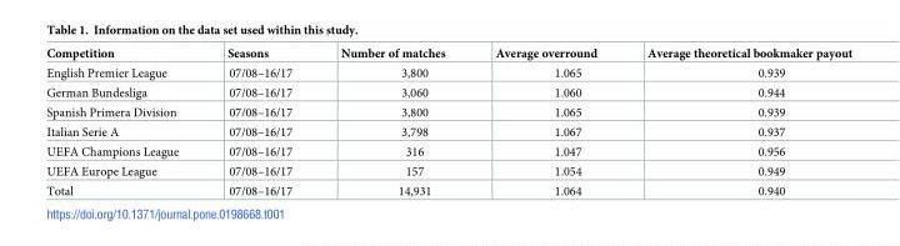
<table><thead><tr><td>Competition</td><td>Seasons</td><td>Number of matches</td><td>Average overround</td><td>Average theoretical bookmaker payout</td></tr></thead><tbody><tr><td>English Premier League</td><td>07/08–16/17</td><td>3,800</td><td>1.065</td><td>0.939</td></tr><tr><td>German Bundesliga</td><td>07/08–16/17</td><td>3,060</td><td>1.060</td><td>0.944</td></tr><tr><td>Spanish Primera Division</td><td>07/08–16/17</td><td>3,800</td><td>1.065</td><td>0.939</td></tr><tr><td>Italian Serie A</td><td>07/08–16/17</td><td>3,798</td><td>1.067</td><td>0.937</td></tr><tr><td>UEFA Champions League</td><td>07/08–16/17</td><td>316</td><td>1.047</td><td>0.956</td></tr><tr><td>UEFA Europe League</td><td>07/08–16/17</td><td>157</td><td>1.054</td><td>0.949</td></tr><tr><td>Total</td><td>07/08–16/17</td><td>14,931</td><td>1.064</td><td>0.940</td></tr></tbody></table>